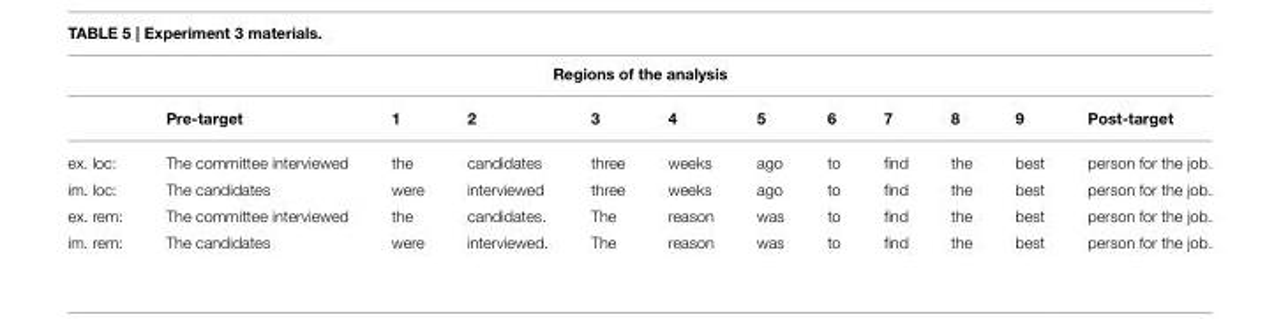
<table><thead><tr><td colspan="12">Regions of the analysis</td></tr><tr><td></td><td>Pre-target</td><td>1</td><td>2</td><td>3</td><td>4</td><td>5</td><td>6</td><td>7</td><td>8</td><td>9</td><td>Post-target</td></tr></thead><tbody><tr><td>ex. loc:</td><td>The committee interviewed</td><td>the</td><td>candidates</td><td>three</td><td>weeks</td><td>ago</td><td>to</td><td>find</td><td>the</td><td>best</td><td>person for the job.</td></tr><tr><td>im. loc:</td><td>The candidates</td><td>were</td><td>interviewed</td><td>three</td><td>weeks</td><td>ago</td><td>to</td><td>find</td><td>the</td><td>best</td><td>person for the job.</td></tr><tr><td>ex. rem:</td><td>The committee interviewed</td><td>the</td><td>candidates.</td><td>The</td><td>reason</td><td>was</td><td>to</td><td>find</td><td>the</td><td>best</td><td>person for the job.</td></tr><tr><td>im. rem:</td><td>The candidates</td><td>were</td><td>interviewed.</td><td>The</td><td>reason</td><td>was</td><td>to</td><td>find</td><td>the</td><td>best</td><td>person for the job.</td></tr></tbody></table>